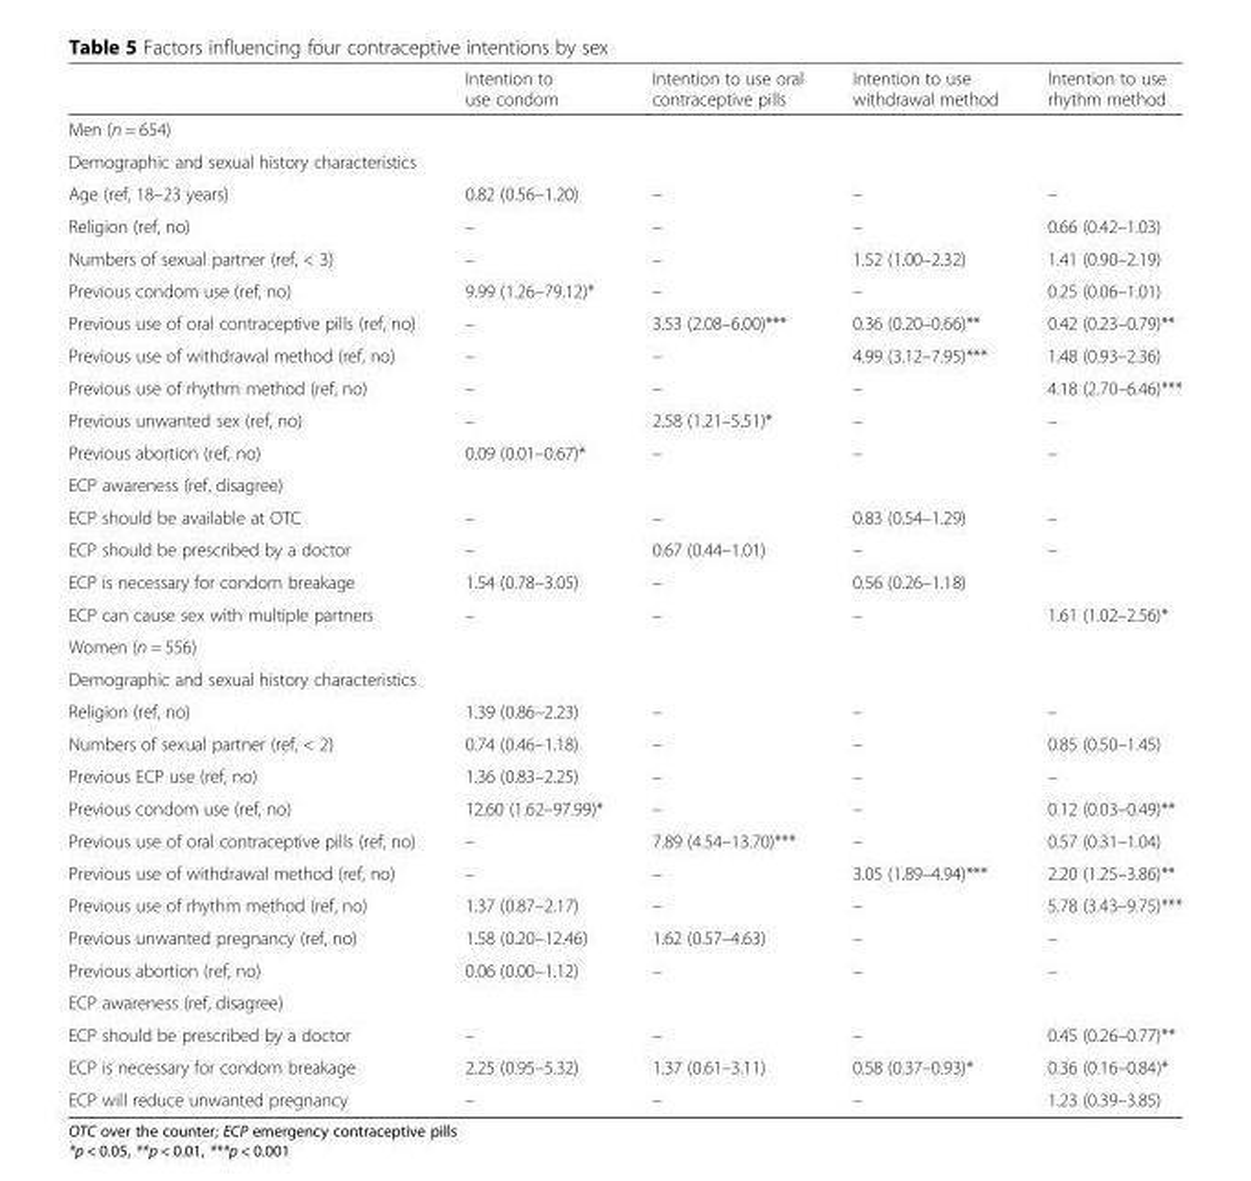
<table><thead><tr><td></td><td>Intention to use condom</td><td>Intention to use oral contraceptive pills</td><td>Intention to use withdrawal method</td><td>Intention to use rhythm method</td></tr></thead><tbody><tr><td colspan="5">Men (n = 654)</td></tr><tr><td colspan="5">Demographic and sexual history characteristics</td></tr><tr><td>Age (ref, 18–23 years)</td><td>0.82 (0.56–1.20)</td><td>–</td><td>–</td><td>–</td></tr><tr><td>Religion (ref, no)</td><td>–</td><td>–</td><td>–</td><td>0.66 (0.42–1.03)</td></tr><tr><td>Numbers of sexual partner (ref, &lt; 3)</td><td>–</td><td>–</td><td>1.52 (1.00–2.32)</td><td>1.41 (0.90–2.19)</td></tr><tr><td>Previous condom use (ref, no)</td><td>9.99 (1.26–79.12)*</td><td>–</td><td>–</td><td>0.25 (0.06–1.01)</td></tr><tr><td>Previous use of oral contraceptive pills (ref, no)</td><td>–</td><td>3.53 (2.08–6.00)***</td><td>0.36 (0.20–0.66)**</td><td>0.42 (0.23–0.79)**</td></tr><tr><td>Previous use of withdrawal method (ref, no)</td><td>–</td><td>–</td><td>4.99 (3.12–7.95)***</td><td>1.48 (0.93–2.36)</td></tr><tr><td>Previous use of rhythm method (ref, no)</td><td>–</td><td>–</td><td>–</td><td>4.18 (2.70–6.46)***</td></tr><tr><td>Previous unwanted sex (ref, no)</td><td>–</td><td>2.58 (1.21–5.51)*</td><td>–</td><td>–</td></tr><tr><td>Previous abortion (ref, no)</td><td>0.09 (0.01–0.67)*</td><td>–</td><td>–</td><td>–</td></tr><tr><td colspan="5">ECP awareness (ref, disagree)</td></tr><tr><td>ECP should be available at OTC</td><td>–</td><td>–</td><td>0.83 (0.54–1.29)</td><td>–</td></tr><tr><td>ECP should be prescribed by a doctor</td><td>–</td><td>0.67 (0.44–1.01)</td><td>–</td><td>–</td></tr><tr><td>ECP is necessary for condom breakage</td><td>1.54 (0.78–3.05)</td><td>–</td><td>0.56 (0.26–1.18)</td><td></td></tr><tr><td>ECP can cause sex with multiple partners</td><td>–</td><td>–</td><td>–</td><td>1.61 (1.02–2.56)*</td></tr><tr><td colspan="5">Women (n = 556)</td></tr><tr><td colspan="5">Demographic and sexual history characteristics</td></tr><tr><td>Religion (ref, no)</td><td>1.39 (0.86–2.23)</td><td>–</td><td>–</td><td>–</td></tr><tr><td>Numbers of sexual partner (ref, &lt; 2)</td><td>0.74 (0.46–1.18)</td><td>–</td><td>–</td><td>0.85 (0.50–1.45)</td></tr><tr><td>Previous ECP use (ref, no)</td><td>1.36 (0.83–2.25)</td><td>–</td><td>–</td><td>–</td></tr><tr><td>Previous condom use (ref, no)</td><td>12.60 (1.62–97.99)*</td><td>–</td><td>–</td><td>0.12 (0.03–0.49)**</td></tr><tr><td>Previous use of oral contraceptive pills (ref, no)</td><td>–</td><td>7.89 (4.54–13.70)***</td><td>–</td><td>0.57 (0.31–1.04)</td></tr><tr><td>Previous use of withdrawal method (ref, no)</td><td>–</td><td>–</td><td>3.05 (1.89–4.94)***</td><td>2.20 (1.25–3.86)**</td></tr><tr><td>Previous use of rhythm method (ref, no)</td><td>1.37 (0.87–2.17)</td><td>–</td><td>–</td><td>5.78 (3.43–9.75)***</td></tr><tr><td>Previous unwanted pregnancy (ref, no)</td><td>1.58 (0.20–12.46)</td><td>1.62 (0.57–4.63)</td><td>–</td><td>–</td></tr><tr><td>Previous abortion (ref, no)</td><td>0.06 (0.00–1.12)</td><td>–</td><td>–</td><td>–</td></tr><tr><td colspan="5">ECP awareness (ref, disagree)</td></tr><tr><td>ECP should be prescribed by a doctor</td><td>–</td><td>–</td><td>–</td><td>0.45 (0.26–0.77)**</td></tr><tr><td>ECP is necessary for condom breakage</td><td>2.25 (0.95–5.32)</td><td>1.37 (0.61–3.11)</td><td>0.58 (0.37–0.93)*</td><td>0.36 (0.16–0.84)*</td></tr><tr><td>ECP will reduce unwanted pregnancy</td><td>–</td><td>–</td><td>–</td><td>1.23 (0.39–3.85)</td></tr></tbody></table>